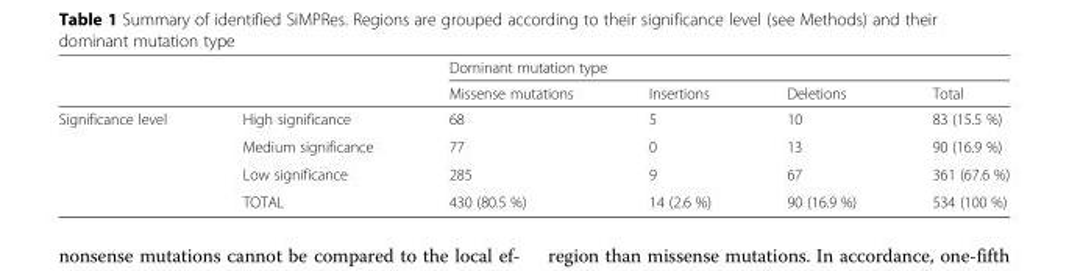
<table><thead><tr><td rowspan="2"></td><td rowspan="2"></td><td colspan="4">Dominant mutation type</td></tr><tr><td>Missense mutations</td><td>Insertions</td><td>Deletions</td><td>Total</td></tr></thead><tbody><tr><td rowspan="4">Significance level</td><td>High significance</td><td>68</td><td>5</td><td>10</td><td>83 (15.5 %)</td></tr><tr><td>Medium significance</td><td>77</td><td>0</td><td>13</td><td>90 (16.9 %)</td></tr><tr><td>Low significance</td><td>285</td><td>9</td><td>67</td><td>361 (67.6 %)</td></tr><tr><td>TOTAL</td><td>430 (80.5 %)</td><td>14 (2.6 %)</td><td>90 (16.9 %)</td><td>534 (100 %)</td></tr></tbody></table>